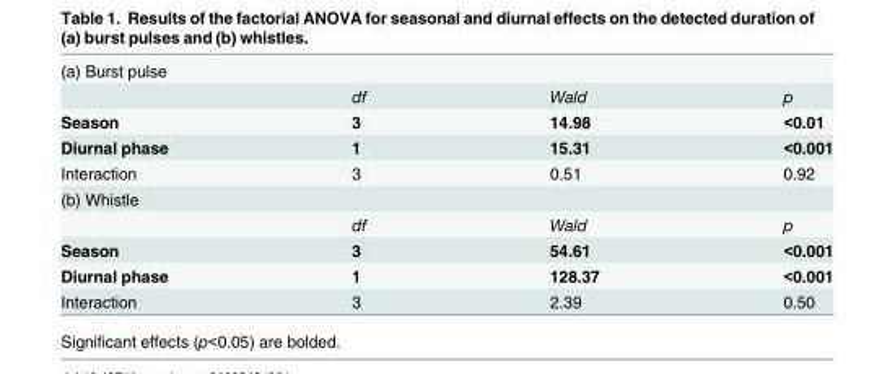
<table><tbody><tr><td colspan="4">(a) Burst pulse</td></tr><tr><td></td><td>df</td><td>Wald</td><td>p</td></tr><tr><td>Season</td><td>3</td><td>14.98</td><td>&lt;0.01</td></tr><tr><td>Diurnal phase</td><td>1</td><td>15.31</td><td>&lt;0.001</td></tr><tr><td>Interaction</td><td>3</td><td>0.51</td><td>0.92</td></tr><tr><td colspan="4">(b) Whistle</td></tr><tr><td></td><td>df</td><td>Wald</td><td>p</td></tr><tr><td>Season</td><td>3</td><td>54.61</td><td>&lt;0.001</td></tr><tr><td>Diurnal phase</td><td>1</td><td>128.37</td><td>&lt;0.001</td></tr><tr><td>Interaction</td><td>3</td><td>2.39</td><td>0.50</td></tr></tbody></table>